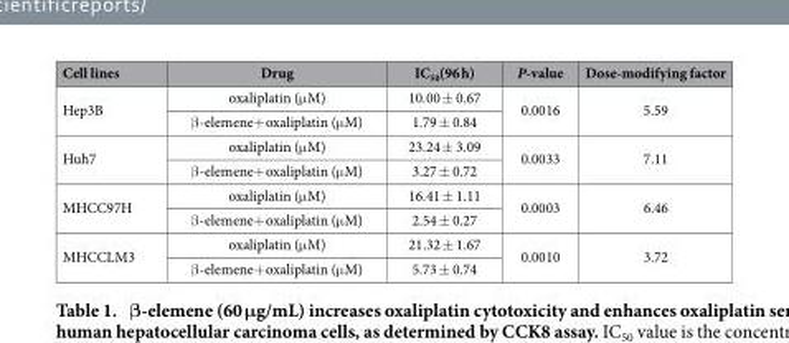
<table><thead><tr><td>Cell lines</td><td>Drug</td><td>IC<sub>50</sub>(96 h)</td><td>P-value</td><td>Dose-modifying factor</td></tr></thead><tbody><tr><td rowspan="2">Hep3B</td><td>oxaliplatin (μ M)</td><td>10.00 ± 0.67</td><td rowspan="2">0.0016</td><td rowspan="2">5.59</td></tr><tr><td>β -elemene+ oxaliplatin (μ M)</td><td>1.79 ± 0.84</td></tr><tr><td rowspan="2">Huh7</td><td>oxaliplatin (μ M)</td><td>23.24 ± 3.09</td><td rowspan="2">0.0033</td><td rowspan="2">7.11</td></tr><tr><td>β -elemene+ oxaliplatin (μ M)</td><td>3.27 ± 0.72</td></tr><tr><td rowspan="2">MHCC97H</td><td>oxaliplatin (μ M)</td><td>16.41 ± 1.11</td><td rowspan="2">0.0003</td><td rowspan="2">6.46</td></tr><tr><td>β -elemene+ oxaliplatin (μ M)</td><td>2.54 ± 0.27</td></tr><tr><td rowspan="2">MHCCLM3</td><td>oxaliplatin (μ M)</td><td>21.32 ± 1.67</td><td rowspan="2">0.0010</td><td rowspan="2">3.72</td></tr><tr><td>β -elemene+ oxaliplatin (μ M)</td><td>5.73 ± 0.74</td></tr></tbody></table>